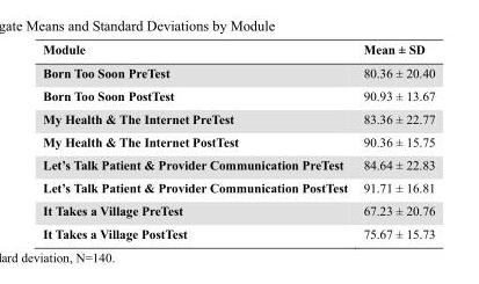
<table><thead><tr><td>Module</td><td>Mean ± SD</td></tr></thead><tbody><tr><td>Born Too Soon PreTest</td><td>80.36 ± 20.40</td></tr><tr><td>Born Too Soon PostTest</td><td>90.93 ± 13.67</td></tr><tr><td>My Health &amp; The Internet PreTest</td><td>83.36 ± 22.77</td></tr><tr><td>My Health &amp; The Internet PostTest</td><td>90.36 ± 15.75</td></tr><tr><td>Let’s Talk Patient &amp; Provider Communication PreTest</td><td>84.64 ± 22.83</td></tr><tr><td>Let’s Talk Patient &amp; Provider Communication PostTest</td><td>91.71 ± 16.81</td></tr><tr><td>It Takes a Village PreTest</td><td>67.23 ± 20.76</td></tr><tr><td>It Takes a Village PostTest</td><td>75.67 ± 15.73</td></tr></tbody></table>